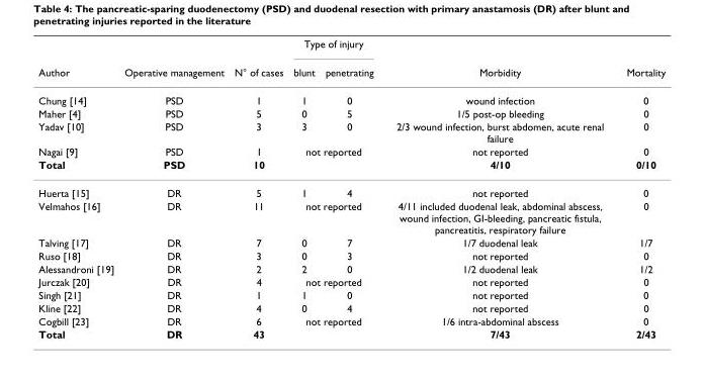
<table><thead><tr><td rowspan="2">Author</td><td rowspan="2">Operative management</td><td rowspan="2">N° of cases</td><td colspan="2">Type of injury</td><td rowspan="2">Morbidity</td><td rowspan="2">Mortality</td></tr><tr><td>blunt</td><td>penetrating</td></tr></thead><tbody><tr><td>Chung [14]</td><td>PSD</td><td>1</td><td>1</td><td>0</td><td>wound infection</td><td>0</td></tr><tr><td>Maher [4]</td><td>PSD</td><td>5</td><td>0</td><td>5</td><td>1/5 post-op bleeding</td><td>0</td></tr><tr><td>Yadav [10]</td><td>PSD</td><td>3</td><td>3</td><td>0</td><td>2/3 wound infection, burst abdomen, acute renal failure</td><td>0</td></tr><tr><td>Nagai [9]</td><td>PSD</td><td>1</td><td colspan="2">not reported</td><td>not reported</td><td>0</td></tr><tr><td>Total</td><td>PSD</td><td>10</td><td></td><td></td><td>4/10</td><td>0/10</td></tr><tr><td>Huerta [15]</td><td>DR</td><td>5</td><td>1</td><td>4</td><td>not reported</td><td>0</td></tr><tr><td>Velmahos [16]</td><td>DR</td><td>11</td><td colspan="2">not reported</td><td>4/11 included duodenal leak, abdominal abscess, wound infection, GI-bleeding, pancreatic fistula, pancreatitis, respiratory failure</td><td>0</td></tr><tr><td>Talving [17]</td><td>DR</td><td>7</td><td>0</td><td>7</td><td>1/7 duodenal leak</td><td>1/7</td></tr><tr><td>Ruso [18]</td><td>DR</td><td>3</td><td>0</td><td>3</td><td>not reported</td><td>0</td></tr><tr><td>Alessandroni [19]</td><td>DR</td><td>2</td><td>2</td><td>0</td><td>1/2 duodenal leak</td><td>1/2</td></tr><tr><td>Jurczak [20]</td><td>DR</td><td>4</td><td colspan="2">not reported</td><td>not reported</td><td>0</td></tr><tr><td>Singh [21]</td><td>DR</td><td>1</td><td>1</td><td>0</td><td>not reported</td><td>0</td></tr><tr><td>Kline [22]</td><td>DR</td><td>4</td><td>0</td><td>4</td><td>not reported</td><td>0</td></tr><tr><td>Cogbill [23]</td><td>DR</td><td>6</td><td colspan="2">not reported</td><td>1/6 intra-abdominal abscess</td><td>0</td></tr><tr><td>Total</td><td>DR</td><td>43</td><td></td><td></td><td>7/43</td><td>2/43</td></tr></tbody></table>